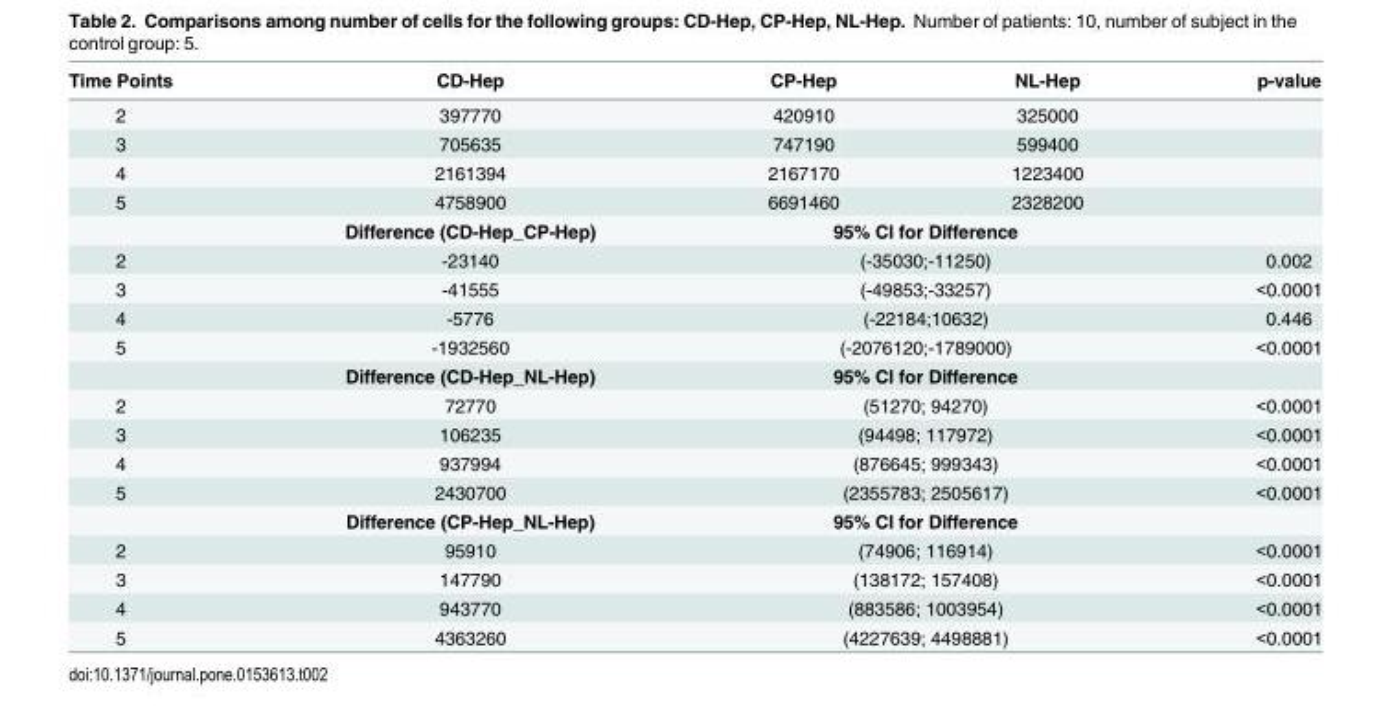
<table><thead><tr><td>Time Points</td><td>CD-Hep</td><td>CP-Hep</td><td>NL-Hep</td><td>p-value</td></tr></thead><tbody><tr><td>2</td><td>397770</td><td>420910</td><td>325000</td><td></td></tr><tr><td>3</td><td>705635</td><td>747190</td><td>599400</td><td></td></tr><tr><td>4</td><td>2161394</td><td>2167170</td><td>1223400</td><td></td></tr><tr><td rowspan="2">5</td><td>4758900</td><td>6691460</td><td>2328200</td><td></td></tr><tr><td>Difference (CD-Hep_CP-Hep)</td><td colspan="2">95% CI for Difference</td><td></td></tr><tr><td>2</td><td>-23140</td><td colspan="2">(-35030;-11250)</td><td>0.002</td></tr><tr><td>3</td><td>-41555</td><td colspan="2">(-49853;-33257)</td><td>&lt;0.0001</td></tr><tr><td>4</td><td>-5776</td><td colspan="2">(-22184;10632)</td><td>0.446</td></tr><tr><td rowspan="2">5</td><td>-1932560</td><td colspan="2">(-2076120;-1789000)</td><td>&lt;0.0001</td></tr><tr><td>Difference (CD-Hep_NL-Hep)</td><td colspan="2">95% CI for Difference</td><td></td></tr><tr><td>2</td><td>72770</td><td colspan="2">(51270; 94270)</td><td>&lt;0.0001</td></tr><tr><td>3</td><td>106235</td><td colspan="2">(94498; 117972)</td><td>&lt;0.0001</td></tr><tr><td>4</td><td>937994</td><td colspan="2">(876645; 999343)</td><td>&lt;0.0001</td></tr><tr><td rowspan="2">5</td><td>2430700</td><td colspan="2">(2355783; 2505617)</td><td>&lt;0.0001</td></tr><tr><td>Difference (CP-Hep_NL-Hep)</td><td colspan="2">95% CI for Difference</td><td></td></tr><tr><td>2</td><td>95910</td><td colspan="2">(74906; 116914)</td><td>&lt;0.0001</td></tr><tr><td>3</td><td>147790</td><td colspan="2">(138172; 157408)</td><td>&lt;0.0001</td></tr><tr><td>4</td><td>943770</td><td colspan="2">(883586; 1003954)</td><td>&lt;0.0001</td></tr><tr><td>5</td><td>4363260</td><td colspan="2">(4227639; 4498881)</td><td>&lt;0.0001</td></tr></tbody></table>